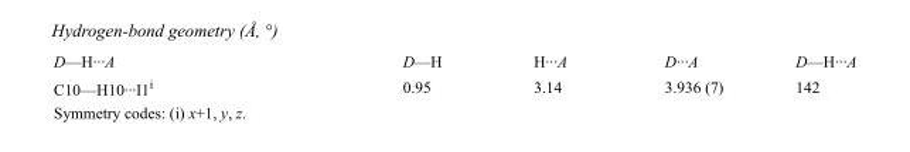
<table><tbody><tr><td>D—H···A</td><td>D—H</td><td>H···A</td><td>D···A</td><td>D—H···A</td></tr><tr><td>C10—H10···I1<sup>i</sup></td><td>0.95</td><td>3.14</td><td>3.936 (7)</td><td>142</td></tr></tbody></table>